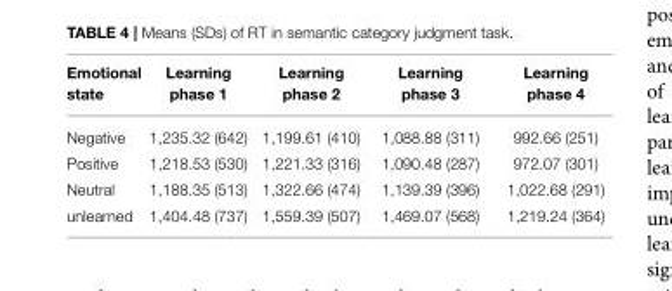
<table><thead><tr><td>Emotional state</td><td>Learning phase 1</td><td>Learning phase 2</td><td>Learning phase 3</td><td>Learning phase 4</td></tr></thead><tbody><tr><td>Negative</td><td>1,235.32 (642)</td><td>1,199.61 (410)</td><td>1,088.88 (311)</td><td>992.66 (251)</td></tr><tr><td>Positive</td><td>1,218.53 (530)</td><td>1,221.33 (316)</td><td>1,090.48 (287)</td><td>972.07 (301)</td></tr><tr><td>Neutral</td><td>1,188.35 (513)</td><td>1,322.66 (474)</td><td>1,139.39 (396)</td><td>1,022.68 (291)</td></tr><tr><td>unlearned</td><td>1,404.48 (737)</td><td>1,559.39 (507)</td><td>1,469.07 (568)</td><td>1,219.24 (364)</td></tr></tbody></table>